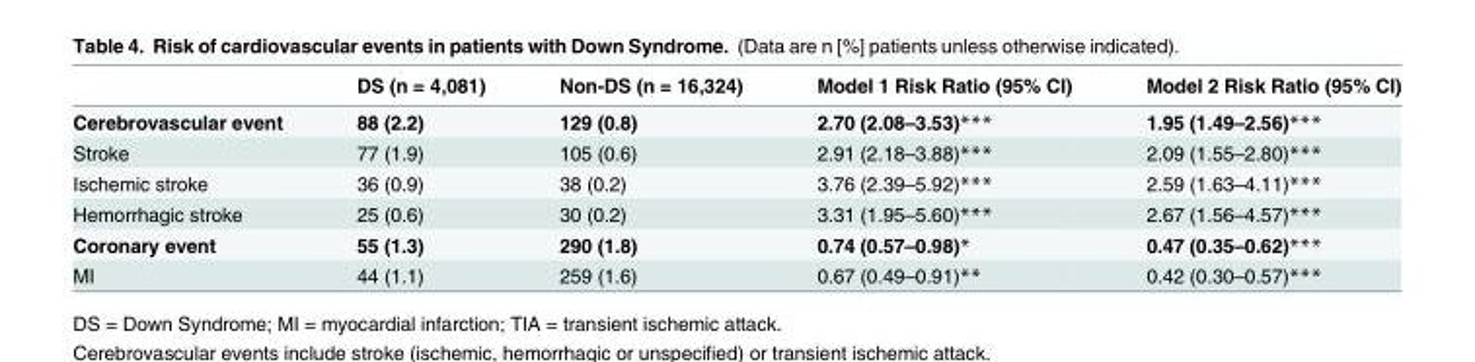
<table><thead><tr><td></td><td>DS (n = 4,081)</td><td>Non-DS (n = 16,324)</td><td>Model 1 Risk Ratio (95% CI)</td><td>Model 2 Risk Ratio (95% CI)</td></tr></thead><tbody><tr><td>Cerebrovascular event</td><td>88 (2.2)</td><td>129 (0.8)</td><td>2.70 (2.08–3.53)***</td><td>1.95 (1.49–2.56)***</td></tr><tr><td>Stroke</td><td>77 (1.9)</td><td>105 (0.6)</td><td>2.91 (2.18–3.88)***</td><td>2.09 (1.55–2.80)***</td></tr><tr><td>Ischemic stroke</td><td>36 (0.9)</td><td>38 (0.2)</td><td>3.76 (2.39–5.92)***</td><td>2.59 (1.63–4.11)***</td></tr><tr><td>Hemorrhagic stroke</td><td>25 (0.6)</td><td>30 (0.2)</td><td>3.31 (1.95–5.60)***</td><td>2.67 (1.56–4.57)***</td></tr><tr><td>Coronary event</td><td>55 (1.3)</td><td>290 (1.8)</td><td>0.74 (0.57–0.98)*</td><td>0.47 (0.35–0.62)***</td></tr><tr><td>MI</td><td>44 (1.1)</td><td>259 (1.6)</td><td>0.67 (0.49–0.91)**</td><td>0.42 (0.30–0.57)***</td></tr></tbody></table>